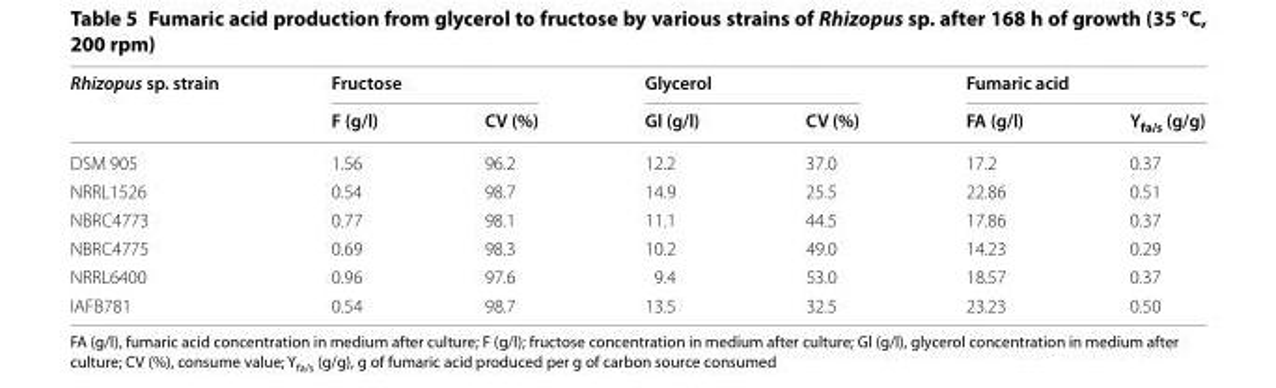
<table><thead><tr><td rowspan="2">Rhizopus sp. strain</td><td colspan="2">Fructose</td><td colspan="2">Glycerol</td><td colspan="2">Fumaric acid</td></tr><tr><td>F (g/l)</td><td>CV (%)</td><td>Gl (g/l)</td><td>CV (%)</td><td>FA (g/l)</td><td>Y<sub>fa/s</sub> (g/g)</td></tr></thead><tbody><tr><td>DSM 905</td><td>1.56</td><td>96.2</td><td>12.2</td><td>37.0</td><td>17.2</td><td>0.37</td></tr><tr><td>NRRL1526</td><td>0.54</td><td>98.7</td><td>14.9</td><td>25.5</td><td>22.86</td><td>0.51</td></tr><tr><td>NBRC4773</td><td>0.77</td><td>98.1</td><td>11.1</td><td>44.5</td><td>17.86</td><td>0.37</td></tr><tr><td>NBRC4775</td><td>0.69</td><td>98.3</td><td>10.2</td><td>49.0</td><td>14.23</td><td>0.29</td></tr><tr><td>NRRL6400</td><td>0.96</td><td>97.6</td><td>9.4</td><td>53.0</td><td>18.57</td><td>0.37</td></tr><tr><td>IAFB781</td><td>0.54</td><td>98.7</td><td>13.5</td><td>32.5</td><td>23.23</td><td>0.50</td></tr></tbody></table>